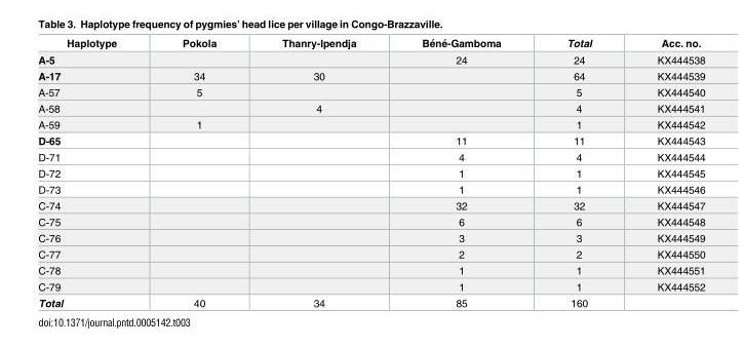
<table><thead><tr><td>Haplotype</td><td>Pokola</td><td>Thanry-Ipendja</td><td>Be´ne´-Gamboma</td><td>Total</td><td>Acc. no.</td></tr></thead><tbody><tr><td>A-5</td><td></td><td></td><td>24</td><td>24</td><td>KX444538</td></tr><tr><td>A-17</td><td>34</td><td>30</td><td></td><td>64</td><td>KX444539</td></tr><tr><td>A-57</td><td>5</td><td></td><td></td><td>5</td><td>KX444540</td></tr><tr><td>A-58</td><td></td><td>4</td><td></td><td>4</td><td>KX444541</td></tr><tr><td>A-59</td><td>1</td><td></td><td></td><td>1</td><td>KX444542</td></tr><tr><td>D-65</td><td></td><td></td><td>11</td><td>11</td><td>KX444543</td></tr><tr><td>D-71</td><td></td><td></td><td>4</td><td>4</td><td>KX444544</td></tr><tr><td>D-72</td><td></td><td></td><td>1</td><td>1</td><td>KX444545</td></tr><tr><td>D-73</td><td></td><td></td><td>1</td><td>1</td><td>KX444546</td></tr><tr><td>C-74</td><td></td><td></td><td>32</td><td>32</td><td>KX444547</td></tr><tr><td>C-75</td><td></td><td></td><td>6</td><td>6</td><td>KX444548</td></tr><tr><td>C-76</td><td></td><td></td><td>3</td><td>3</td><td>KX444549</td></tr><tr><td>C-77</td><td></td><td></td><td>2</td><td>2</td><td>KX444550</td></tr><tr><td>C-78</td><td></td><td></td><td>1</td><td>1</td><td>KX444551</td></tr><tr><td>C-79</td><td></td><td></td><td>1</td><td>1</td><td>KX444552</td></tr><tr><td>Total</td><td>40</td><td>34</td><td>85</td><td>160</td><td></td></tr></tbody></table>